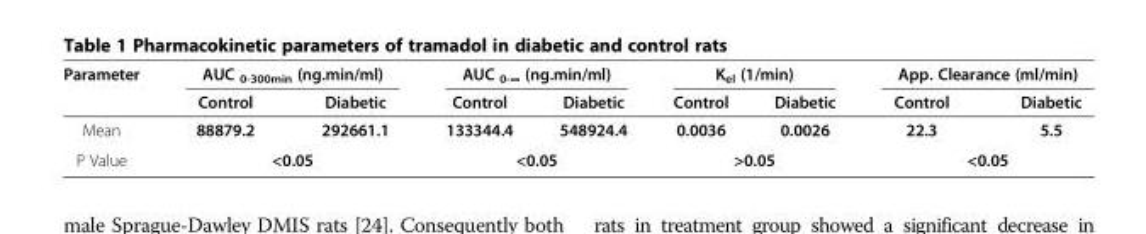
<table><thead><tr><td rowspan="2">Parameter</td><td colspan="2">AUC <sub>0-300min</sub> (ng.min/ml)</td><td colspan="2">AUC <sub>0-∞</sub> (ng.min/ml)</td><td colspan="2">K<sub>el</sub> (1/min)</td><td colspan="2">App. Clearance (ml/min)</td></tr><tr><td>Control</td><td>Diabetic</td><td>Control</td><td>Diabetic</td><td>Control</td><td>Diabetic</td><td>Control</td><td>Diabetic</td></tr></thead><tbody><tr><td>Mean</td><td>88879.2</td><td>292661.1</td><td>133344.4</td><td>548924.4</td><td>0.0036</td><td>0.0026</td><td>22.3</td><td>5.5</td></tr><tr><td>P Value</td><td colspan="2">&lt;0.05</td><td colspan="2">&lt;0.05</td><td colspan="2">&gt;0.05</td><td colspan="2">&lt;0.05</td></tr></tbody></table>